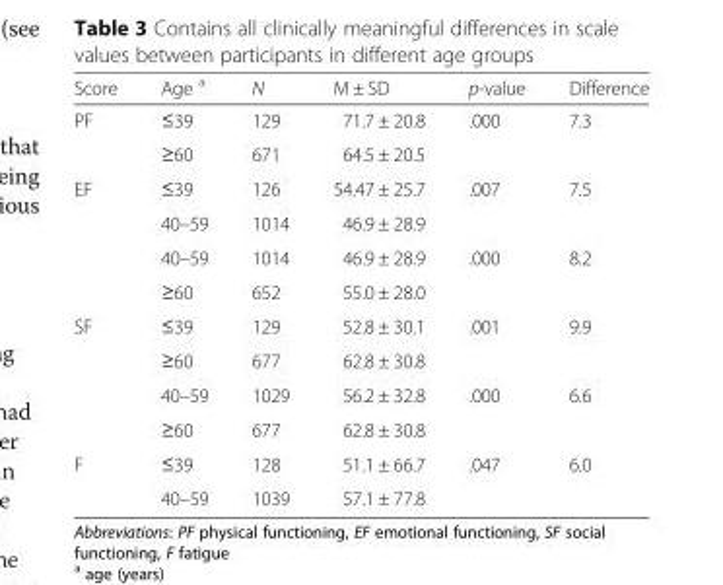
<table><thead><tr><td>Score</td><td>Age <sup>a</sup></td><td>N</td><td>M ± SD</td><td>p-value</td><td>Difference</td></tr></thead><tbody><tr><td rowspan="2">PF</td><td>≤39</td><td>129</td><td>71.7 ± 20.8</td><td rowspan="2">.000</td><td rowspan="2">7.3</td></tr><tr><td>≥60</td><td>671</td><td>64.5 ± 20.5</td></tr><tr><td rowspan="4">EF</td><td>≤39</td><td>126</td><td>54.47 ± 25.7</td><td rowspan="2">.007</td><td rowspan="2">7.5</td></tr><tr><td>40–59</td><td>1014</td><td>46.9 ± 28.9</td></tr><tr><td>40–59</td><td>1014</td><td>46.9 ± 28.9</td><td rowspan="2">.000</td><td rowspan="2">8.2</td></tr><tr><td>≥60</td><td>652</td><td>55.0 ± 28.0</td></tr><tr><td rowspan="4">SF</td><td>≤39</td><td>129</td><td>52.8 ± 30.1</td><td rowspan="2">.001</td><td rowspan="2">9.9</td></tr><tr><td>≥60</td><td>677</td><td>62.8 ± 30.8</td></tr><tr><td>40–59</td><td>1029</td><td>56.2 ± 32.8</td><td rowspan="2">.000</td><td rowspan="2">6.6</td></tr><tr><td>≥60</td><td>677</td><td>62.8 ± 30.8</td></tr><tr><td rowspan="2">F</td><td>≤39</td><td>128</td><td>51.1 ± 66.7</td><td rowspan="2">.047</td><td rowspan="2">6.0</td></tr><tr><td>40–59</td><td>1039</td><td>57.1 ± 77.8</td></tr></tbody></table>